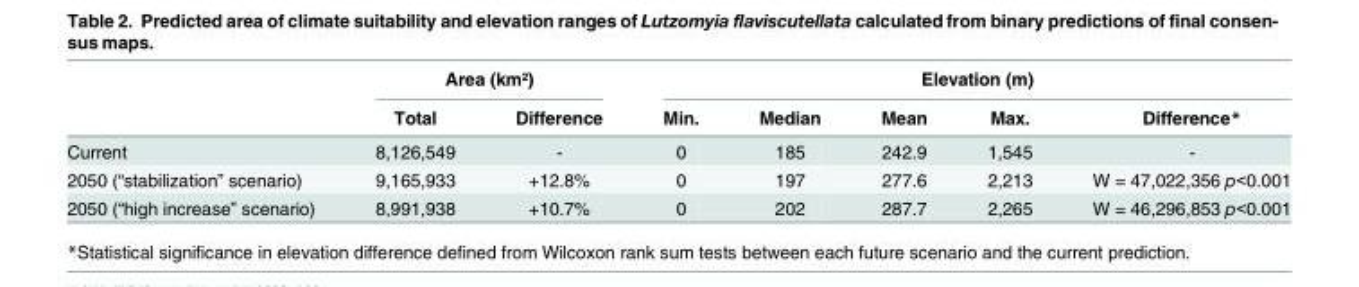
<table><thead><tr><td rowspan="2"></td><td colspan="2">Area (km²)</td><td colspan="5">Elevation (m)</td></tr><tr><td>Total</td><td>Difference</td><td>Min.</td><td>Median</td><td>Mean</td><td>Max.</td><td>Difference*</td></tr></thead><tbody><tr><td>Current</td><td>8,126,549</td><td>-</td><td>0</td><td>185</td><td>242.9</td><td>1,545</td><td>-</td></tr><tr><td>2050 (“stabilization” scenario)</td><td>9,165,933</td><td>+12.8%</td><td>0</td><td>197</td><td>277.6</td><td>2,213</td><td>W = 47,022,356 p&lt;0.001</td></tr><tr><td>2050 (“high increase” scenario)</td><td>8,991,938</td><td>+10.7%</td><td>0</td><td>202</td><td>287.7</td><td>2,265</td><td>W = 46,296,853 p&lt;0.001</td></tr></tbody></table>